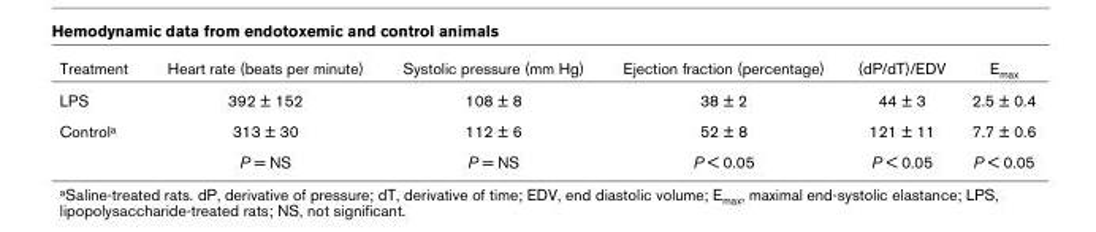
<table><thead><tr><td>Treatment</td><td>Heart rate (beats per minute)</td><td>Systolic pressure (mm Hg)</td><td>Ejection fraction (percentage)</td><td>(dP/dT)/EDV</td><td>E<sub>max</sub></td></tr></thead><tbody><tr><td>LPS</td><td>392 ± 152</td><td>108 ± 8</td><td>38 ± 2</td><td>44 ± 3</td><td>2.5 ± 0.4</td></tr><tr><td rowspan="2">Control<sup>a</sup></td><td>313 ± 30</td><td>112 ± 6</td><td>52 ± 8</td><td>121 ± 11</td><td>7.7 ± 0.6</td></tr><tr><td>P = NS</td><td>P = NS</td><td>P &lt; 0.05</td><td>P &lt; 0.05</td><td>P &lt; 0.05</td></tr></tbody></table>